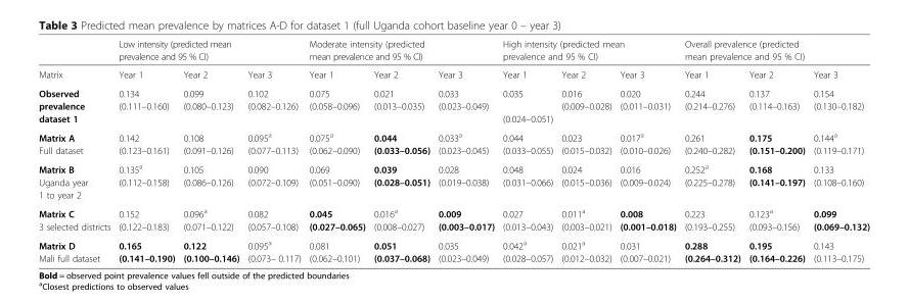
<table><thead><tr><td rowspan="2">Matrix</td><td colspan="3">Low intensity (predicted mean prevalence and 95 % CI)</td><td colspan="3">Moderate intensity (predicted mean prevalence and 95 % CI)</td><td colspan="3">High intensity (predicted mean prevalence and 95 % CI)</td><td colspan="3">Overall prevalence (predicted mean prevalence and 95 % CI)</td></tr><tr><td>Year 1</td><td>Year 2</td><td>Year 3</td><td>Year 1</td><td>Year 2</td><td>Year 3</td><td>Year 1</td><td>Year 2</td><td>Year 3</td><td>Year 1</td><td>Year 2</td><td>Year 3</td></tr></thead><tbody><tr><td>Observed prevalence dataset 1</td><td>0.134 (0.111–0.160)</td><td>0.099 (0.080–0.123)</td><td>0.102 (0.082–0.126)</td><td>0.075 (0.058–0.096)</td><td>0.021 (0.013–0.035)</td><td>0.033 (0.023–0.049)</td><td>0.035 (0.024–0.051)</td><td>0.016 (0.009–0.028)</td><td>0.020 (0.011–0.031)</td><td>0.244 (0.214–0.276)</td><td>0.137 (0.114–0.163)</td><td>0.154 (0.130–0.182)</td></tr><tr><td>Matrix A Full dataset</td><td>0.142 (0.123–0.161)</td><td>0.108 (0.091–0.126)</td><td>0.095<sup>a</sup> (0.077–0.113)</td><td>0.075<sup>a</sup> (0.062–0.090)</td><td>0.044 (0.033–0.056)</td><td>0.033<sup>a</sup> (0.023–0.045)</td><td>0.044 (0.033–0.055)</td><td>0.023 (0.015–0.032)</td><td>0.017<sup>a</sup> (0.010–0.026)</td><td>0.261 (0.240–0.282)</td><td>0.175 (0.151–0.200)</td><td>0.144<sup>a</sup> (0.119–0.171)</td></tr><tr><td>Matrix B Uganda year 1 to year 2</td><td>0.135<sup>a</sup> (0.112–0.158)</td><td>0.105 (0.086–0.126)</td><td>0.090 (0.072–0.109)</td><td>0.069 (0.051–0.090)</td><td>0.039 (0.028–0.051)</td><td>0.028 (0.019–0.038)</td><td>0.048 (0.031–0.066)</td><td>0.024 (0.015–0.036)</td><td>0.016 (0.009–0.024)</td><td>0.252<sup>a</sup> (0.225–0.278)</td><td>0.168 (0.141–0.197)</td><td>0.133 (0.108–0.160)</td></tr><tr><td>Matrix C 3 selected districts</td><td>0.152 (0.122–0.183)</td><td>0.096<sup>a</sup> (0.071–0.122)</td><td>0.082 (0.057–0.108)</td><td>0.045 (0.027–0.065)</td><td>0.016<sup>a</sup> (0.008–0.027)</td><td>0.009 (0.003–0.017)</td><td>0.027 (0.013–0.043)</td><td>0.011<sup>a</sup> (0.003–0.021)</td><td>0.008 (0.001–0.018)</td><td>0.223 (0.193–0.255)</td><td>0.123<sup>a</sup> (0.093–0.156)</td><td>0.099 (0.069–0.132)</td></tr><tr><td>Matrix D Mali full dataset</td><td>0.165 (0.141–0.190)</td><td>0.122 (0.100–0.146)</td><td>0.095<sup>a</sup> (0.073– 0.117)</td><td>0.081 (0.062–0.101)</td><td>0.051 (0.037–0.068)</td><td>0.035 (0.023–0.049)</td><td>0.042<sup>a</sup> (0.028–0.057)</td><td>0.021<sup>a</sup> (0.012–0.032)</td><td>0.031 (0.007–0.021)</td><td>0.288 (0.264–0.312)</td><td>0.195 (0.164–0.226)</td><td>0.143 (0.113–0.175)</td></tr></tbody></table>